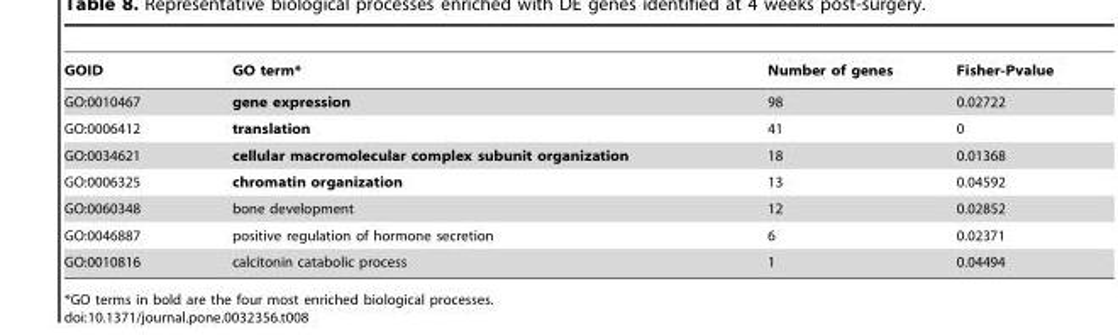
<table><thead><tr><td>GOID</td><td>GO term*</td><td>Number of genes</td><td>Fisher-Pvalue</td></tr></thead><tbody><tr><td>GO:0010467</td><td>gene expression</td><td>98</td><td>0.02722</td></tr><tr><td>GO:0006412</td><td>translation</td><td>41</td><td>0</td></tr><tr><td>GO:0034621</td><td>cellular macromolecular complex subunit organization</td><td>18</td><td>0.01368</td></tr><tr><td>GO:0006325</td><td>chromatin organization</td><td>13</td><td>0.04592</td></tr><tr><td>GO:0060348</td><td>bone development</td><td>12</td><td>0.02852</td></tr><tr><td>GO:0046887</td><td>positive regulation of hormone secretion</td><td>6</td><td>0.02371</td></tr><tr><td>GO:0010816</td><td>calcitonin catabolic process</td><td>1</td><td>0.04494</td></tr></tbody></table>